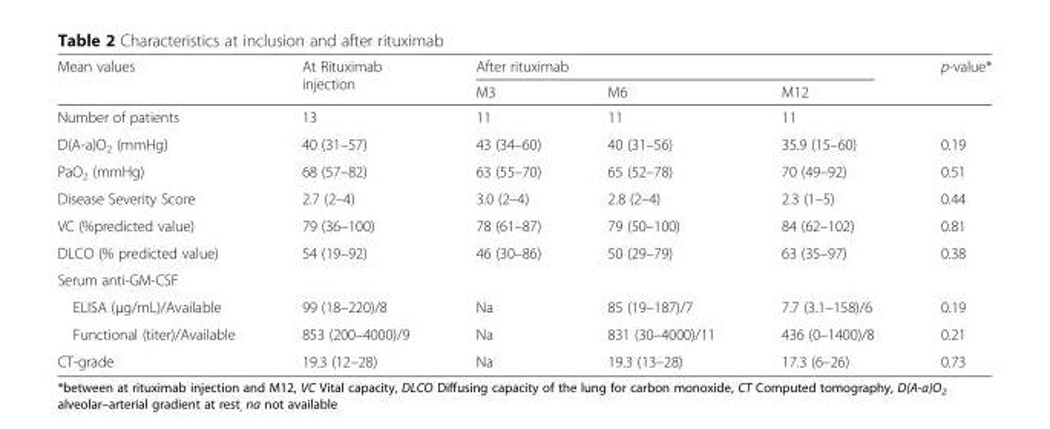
<table><thead><tr><td rowspan="2">Mean values</td><td rowspan="2">At Rituximab injection</td><td colspan="3">After rituximab</td><td rowspan="2">p-value*</td></tr><tr><td>M3</td><td>M6</td><td>M12</td></tr></thead><tbody><tr><td>Number of patients</td><td>13</td><td>11</td><td>11</td><td>11</td><td></td></tr><tr><td>D(A-a)O<sub>2</sub> (mmHg)</td><td>40 (31–57)</td><td>43 (34–60)</td><td>40 (31–56)</td><td>35.9 (15–60)</td><td>0.19</td></tr><tr><td>PaO<sub>2</sub> (mmHg)</td><td>68 (57–82)</td><td>63 (55–70)</td><td>65 (52–78)</td><td>70 (49–92)</td><td>0.51</td></tr><tr><td>Disease Severity Score</td><td>2.7 (2–4)</td><td>3.0 (2–4)</td><td>2.8 (2–4)</td><td>2.3 (1–5)</td><td>0.44</td></tr><tr><td>VC (%predicted value)</td><td>79 (36–100)</td><td>78 (61–87)</td><td>79 (50–100)</td><td>84 (62–102)</td><td>0.81</td></tr><tr><td>DLCO (% predicted value)</td><td>54 (19–92)</td><td>46 (30–86)</td><td>50 (29–79)</td><td>63 (35–97)</td><td>0.38</td></tr><tr><td colspan="6">Serum anti-GM-CSF</td></tr><tr><td>ELISA (μg/mL)/Available</td><td>99 (18–220)/8</td><td>Na</td><td>85 (19–187)/7</td><td>7.7 (3.1–158)/6</td><td>0.19</td></tr><tr><td>Functional (titer)/Available</td><td>853 (200–4000)/9</td><td>Na</td><td>831 (30–4000)/11</td><td>436 (0–1400)/8</td><td>0.21</td></tr><tr><td>CT-grade</td><td>19.3 (12–28)</td><td>Na</td><td>19.3 (13–28)</td><td>17.3 (6–26)</td><td>0.73</td></tr></tbody></table>